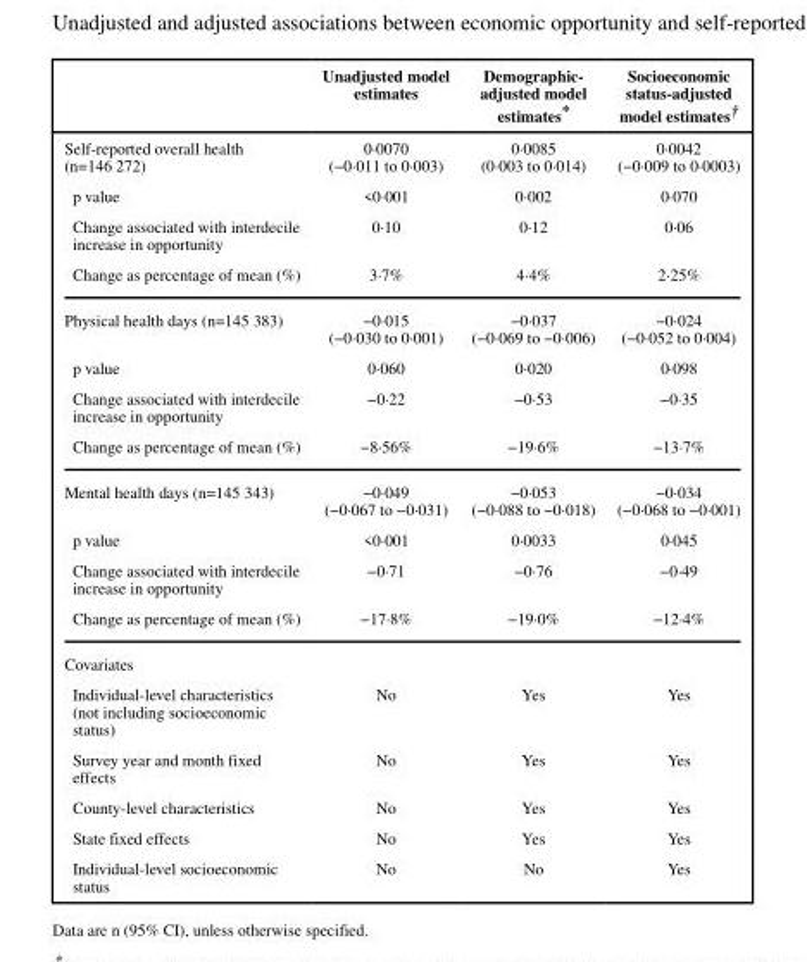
<table><thead><tr><td></td><td>Unadjusted model estimates</td><td>Demographic- adjusted model estimates*</td><td>Socioeconomic status-adjusted model estimates†</td></tr></thead><tbody><tr><td>Self-reported overall health (n=146 272)</td><td>0·0070 (−0·011 to 0·003)</td><td>0·0085 (0·003 to 0·014)</td><td>0·0042 (−0·009 to 0·0003)</td></tr><tr><td>p value</td><td>&lt;0·001</td><td>0·002</td><td>0·070</td></tr><tr><td>Change associated with interdecile increase in opportunity</td><td>0·10</td><td>0·12</td><td>0·06</td></tr><tr><td>Change as percentage of mean (%)</td><td>3·7%</td><td>4·4%</td><td>2·25%</td></tr><tr><td>Physical health days (n=145 383)</td><td>−0·015 (−0·030 to 0·001)</td><td>−0·037 (−0·069 to −0·006)</td><td>−0·024 (−0·052 to 0·004)</td></tr><tr><td>p value</td><td>0·060</td><td>0·020</td><td>0·098</td></tr><tr><td>Change associated with interdecile increase in opportunity</td><td>−0·22</td><td>−0·53</td><td>−0·35</td></tr><tr><td>Change as percentage of mean (%)</td><td>−8·56%</td><td>−19·6%</td><td>−13·7%</td></tr><tr><td>Mental health days (n=145 343)</td><td>−0·049 (−0·067 to −0·031)</td><td>−0·053 (−0·088 to −0·018)</td><td>−0·034 (−0·068 to −0·001)</td></tr><tr><td>p value</td><td>&lt;0·001</td><td>0·0033</td><td>0·045</td></tr><tr><td>Change associated with interdecile increase in opportunity</td><td>−0·71</td><td>−0·76</td><td>−0·49</td></tr><tr><td>Change as percentage of mean (%)</td><td>−17·8%</td><td>−19·0%</td><td>−12·4%</td></tr><tr><td colspan="4">Covariates</td></tr><tr><td>Individual-level characteristics (not including socioeconomic status)</td><td>No</td><td>Yes</td><td>Yes</td></tr><tr><td>Survey year and month fixed effects</td><td>No</td><td>Yes</td><td>Yes</td></tr><tr><td>County-level characteristics</td><td>No</td><td>Yes</td><td>Yes</td></tr><tr><td>State fixed effects</td><td>No</td><td>Yes</td><td>Yes</td></tr><tr><td>Individual-level socioeconomic status</td><td>No</td><td>No</td><td>Yes</td></tr></tbody></table>